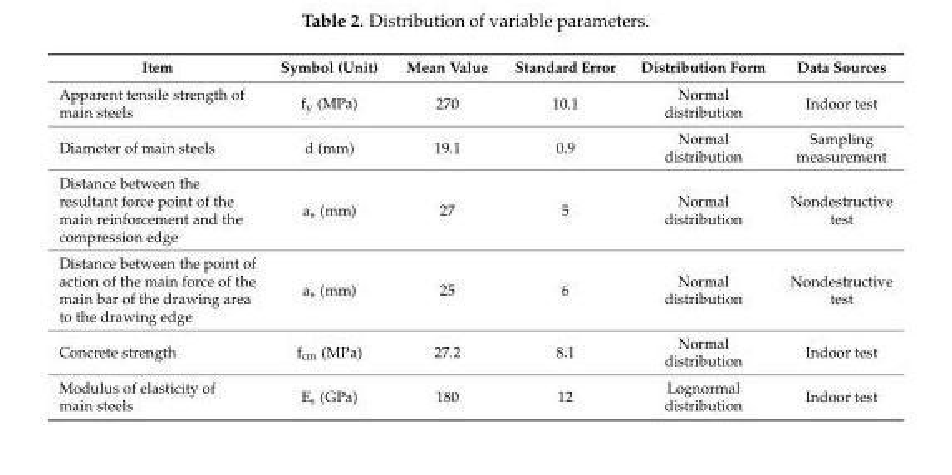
<table><thead><tr><td>Item</td><td>Symbol (Unit)</td><td>Mean Value</td><td>Standard Error</td><td>Distribution Form</td><td>Data Sources</td></tr></thead><tbody><tr><td>Apparent tensile strength of main steels</td><td>f<sub>y</sub> (MPa)</td><td>270</td><td>10.1</td><td>Normal distribution</td><td>Indoor test</td></tr><tr><td>Diameter of main steels</td><td>d (mm)</td><td>19.1</td><td>0.9</td><td>Normal distribution</td><td>Sampling measurement</td></tr><tr><td>Distance between the resultant force point of the main reinforcement and the compression edge</td><td>a<sub>s</sub> (mm)</td><td>27</td><td>5</td><td>Normal distribution</td><td>Nondestructive test</td></tr><tr><td>Distance between the point of action of the main force of the main bar of the drawing area to the drawing edge</td><td>a<sub>s</sub> (mm)</td><td>25</td><td>6</td><td>Normal distribution</td><td>Nondestructive test</td></tr><tr><td>Concrete strength</td><td>f<sub>cm</sub> (MPa)</td><td>27.2</td><td>8.1</td><td>Normal distribution</td><td>Indoor test</td></tr><tr><td>Modulus of elasticity of main steels</td><td>E<sub>s</sub> (GPa)</td><td>180</td><td>12</td><td>Lognormal distribution</td><td>Indoor test</td></tr></tbody></table>